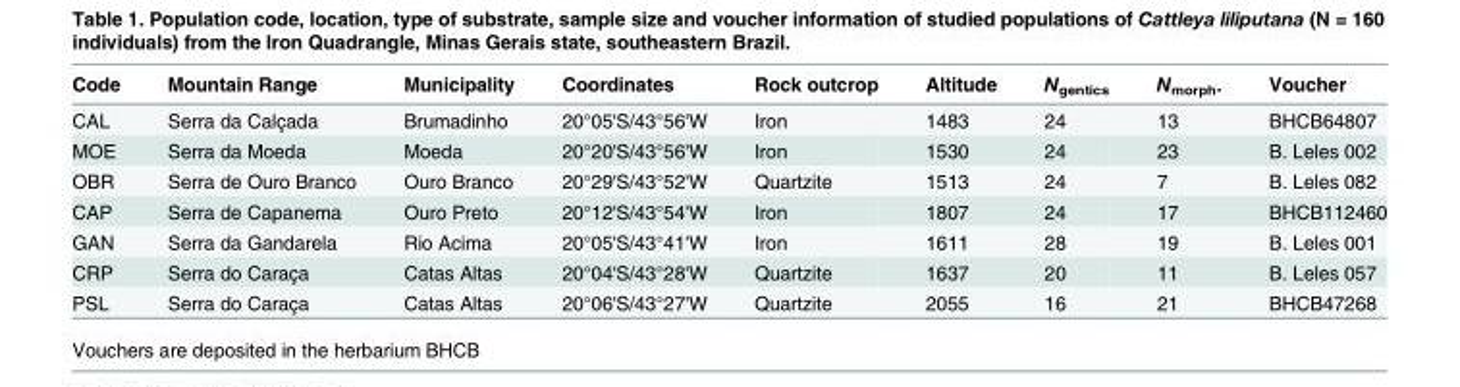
<table><thead><tr><td>Code</td><td>Mountain Range</td><td>Municipality</td><td>Coordinates</td><td>Rock outcrop</td><td>Altitude</td><td>N<sub>gentics</sub></td><td>N<sub>morph</sub>.</td><td>Voucher</td></tr></thead><tbody><tr><td>CAL</td><td>Serra da Calçada</td><td>Brumadinho</td><td>20°05&#x27;S/43°56&#x27;W</td><td>Iron</td><td>1483</td><td>24</td><td>13</td><td>BHCB64807</td></tr><tr><td>MOE</td><td>Serra da Moeda</td><td>Moeda</td><td>20°20&#x27;S/43°56&#x27;W</td><td>Iron</td><td>1530</td><td>24</td><td>23</td><td>B. Leles 002</td></tr><tr><td>OBR</td><td>Serra de Ouro Branco</td><td>Ouro Branco</td><td>20°29&#x27;S/43°52&#x27;W</td><td>Quartzite</td><td>1513</td><td>24</td><td>7</td><td>B. Leles 082</td></tr><tr><td>CAP</td><td>Serra de Capanema</td><td>Ouro Preto</td><td>20°12&#x27;S/43°54&#x27;W</td><td>Iron</td><td>1807</td><td>24</td><td>17</td><td>BHCB112460</td></tr><tr><td>GAN</td><td>Serra da Gandarela</td><td>Rio Acima</td><td>20°05&#x27;S/43°41&#x27;W</td><td>Iron</td><td>1611</td><td>28</td><td>19</td><td>B. Leles 001</td></tr><tr><td>CRP</td><td>Serra do Caraça</td><td>Catas Altas</td><td>20°04&#x27;S/43°28&#x27;W</td><td>Quartzite</td><td>1637</td><td>20</td><td>11</td><td>B. Leles 057</td></tr><tr><td>PSL</td><td>Serra do Caraça</td><td>Catas Altas</td><td>20°06&#x27;S/43°27&#x27;W</td><td>Quartzite</td><td>2055</td><td>16</td><td>21</td><td>BHCB47268</td></tr></tbody></table>